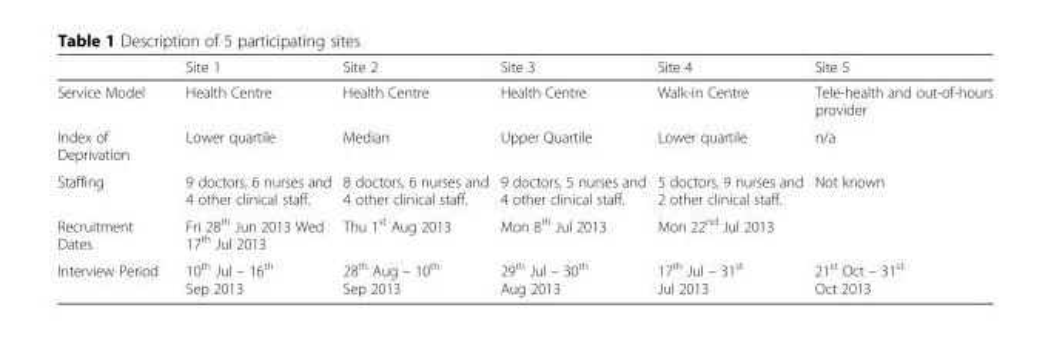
<table><thead><tr><td></td><td>Site 1</td><td>Site 2</td><td>Site 3</td><td>Site 4</td><td>Site 5</td></tr></thead><tbody><tr><td>Service Model</td><td>Health Centre</td><td>Health Centre</td><td>Health Centre</td><td>Walk-in Centre</td><td>Tele-health and out-of-hours provider</td></tr><tr><td>Index of Deprivation</td><td>Lower quartile</td><td>Median</td><td>Upper Quartile</td><td>Lower quartile</td><td>n/a</td></tr><tr><td>Staffing</td><td>9 doctors, 6 nurses and 4 other clinical staff.</td><td>8 doctors, 6 nurses and 4 other clinical staff.</td><td>9 doctors, 5 nurses and 4 other clinical staff.</td><td>5 doctors, 9 nurses and 2 other clinical staff.</td><td>Not known</td></tr><tr><td>Recruitment Dates</td><td>Fri 28<sup>th</sup> Jun 2013 Wed 17<sup>th</sup> Jul 2013</td><td>Thu 1<sup>st</sup> Aug 2013</td><td>Mon 8<sup>th</sup> Jul 2013</td><td>Mon 22<sup>nd</sup> Jul 2013</td><td></td></tr><tr><td>Interview Period</td><td>10<sup>th</sup> Jul – 16<sup>th</sup> Sep 2013</td><td>28<sup>th</sup> Aug – 10<sup>th</sup> Sep 2013</td><td>29<sup>th</sup> Jul – 30<sup>th</sup> Aug 2013</td><td>17<sup>th</sup> Jul – 31<sup>st</sup> Jul 2013</td><td>21<sup>st</sup> Oct – 31<sup>st</sup> Oct 2013</td></tr></tbody></table>